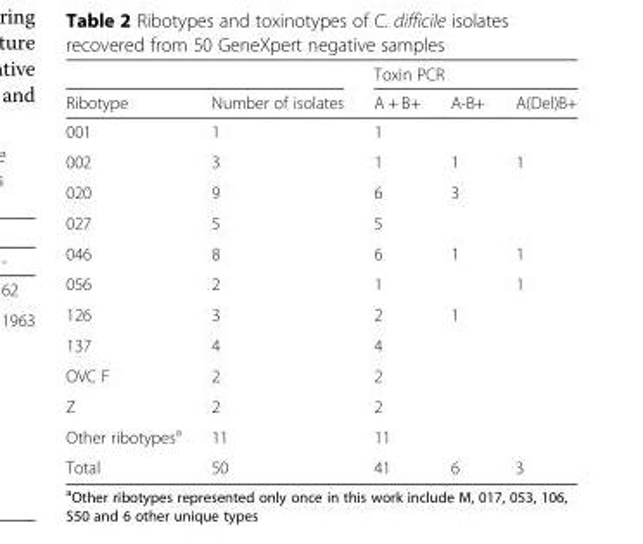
<table><thead><tr><td rowspan="2">Ribotype</td><td rowspan="2">Number of isolates</td><td colspan="3">Toxin PCR</td></tr><tr><td>A + B+</td><td>A-B+</td><td>A(Del)B+</td></tr></thead><tbody><tr><td>001</td><td>1</td><td>1</td><td colspan="2"></td></tr><tr><td>002</td><td>3</td><td>1</td><td>1</td><td>1</td></tr><tr><td>020</td><td>9</td><td>6</td><td colspan="2">3</td></tr><tr><td>027</td><td>5</td><td>5</td><td colspan="2"></td></tr><tr><td>046</td><td>8</td><td>6</td><td>1</td><td>1</td></tr><tr><td>056</td><td>2</td><td colspan="2">1</td><td>1</td></tr><tr><td>126</td><td>3</td><td>2</td><td colspan="2">1</td></tr><tr><td>137</td><td>4</td><td>4</td><td rowspan="4" colspan="2"></td></tr><tr><td>OVC F</td><td>2</td><td>2</td></tr><tr><td>Z</td><td>2</td><td>2</td></tr><tr><td>Other ribotypes<sup>a</sup></td><td>11</td><td>11</td></tr><tr><td>Total</td><td>50</td><td>41</td><td>6</td><td>3</td></tr></tbody></table>